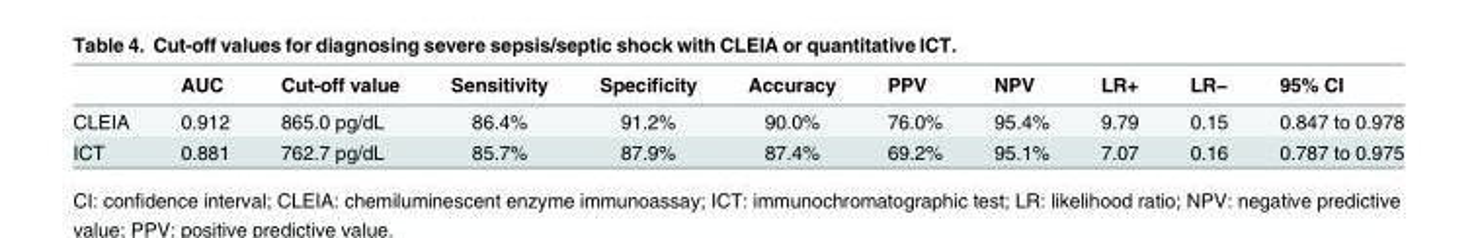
<table><thead><tr><td></td><td>AUC</td><td>Cut-off value</td><td>Sensitivity</td><td>Specificity</td><td>Accuracy</td><td>PPV</td><td>NPV</td><td>LR+</td><td>LR−</td><td>95% CI</td></tr></thead><tbody><tr><td>CLEIA</td><td>0.912</td><td>865.0 pg/dL</td><td>86.4%</td><td>91.2%</td><td>90.0%</td><td>76.0%</td><td>95.4%</td><td>9.79</td><td>0.15</td><td>0.847 to 0.978</td></tr><tr><td>ICT</td><td>0.881</td><td>762.7 pg/dL</td><td>85.7%</td><td>87.9%</td><td>87.4%</td><td>69.2%</td><td>95.1%</td><td>7.07</td><td>0.16</td><td>0.787 to 0.975</td></tr></tbody></table>